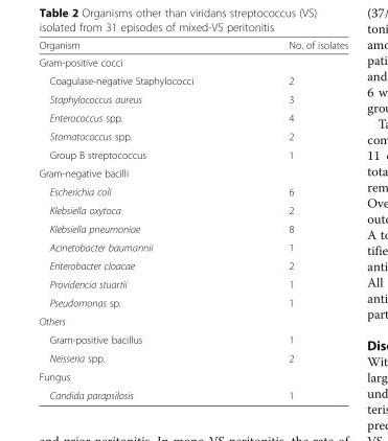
<table><thead><tr><td>Organism</td><td>No. of isolates</td></tr></thead><tbody><tr><td colspan="2">Gram-positive cocci</td></tr><tr><td>Coagulase-negative Staphylococci</td><td>2</td></tr><tr><td>Staphylococcus aureus</td><td>3</td></tr><tr><td>Enterococcus spp.</td><td>4</td></tr><tr><td>Stomatococcus spp.</td><td>2</td></tr><tr><td>Group B streptococcus</td><td>1</td></tr><tr><td colspan="2">Gram-negative bacilli</td></tr><tr><td>Escherichia coli</td><td>6</td></tr><tr><td>Klebsiella oxytoca</td><td>2</td></tr><tr><td>Klebsiella pneumoniae</td><td>8</td></tr><tr><td>Acinetobacter baumannii</td><td>1</td></tr><tr><td>Enterobacter cloacae</td><td>2</td></tr><tr><td>Providencia stuartii</td><td>1</td></tr><tr><td>Pseudomonas sp.</td><td>1</td></tr><tr><td colspan="2">Others</td></tr><tr><td>Gram-positive bacillus</td><td>1</td></tr><tr><td>Neisseria spp.</td><td>2</td></tr><tr><td colspan="2">Fungus</td></tr><tr><td>Candida parapsilosis</td><td>1</td></tr></tbody></table>